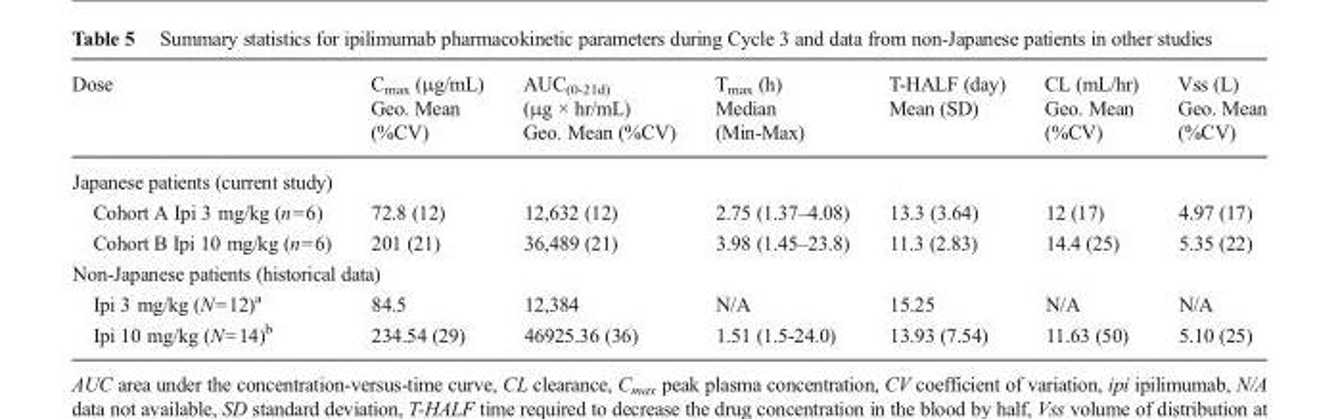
<table><thead><tr><td>Dose</td><td>C<sub>max</sub> (μg/mL) Geo. Mean (%CV)</td><td>AUC<sub>(0-21d)</sub> (μg × hr/mL) Geo. Mean (%CV)</td><td>T<sub>max</sub> (h) Median (Min-Max)</td><td>T-HALF (day) Mean (SD)</td><td>CL (mL/hr) Geo. Mean (%CV)</td><td>Vss (L) Geo. Mean (%CV)</td></tr></thead><tbody><tr><td colspan="7">Japanese patients (current study)</td></tr><tr><td>Cohort A Ipi 3 mg/kg (n=6)</td><td>72.8 (12)</td><td>12,632 (12)</td><td>2.75 (1.37–4.08)</td><td>13.3 (3.64)</td><td>12 (17)</td><td>4.97 (17)</td></tr><tr><td>Cohort B Ipi 10 mg/kg (n=6)</td><td>201 (21)</td><td>36,489 (21)</td><td>3.98 (1.45–23.8)</td><td>11.3 (2.83)</td><td>14.4 (25)</td><td>5.35 (22)</td></tr><tr><td colspan="7">Non-Japanese patients (historical data)</td></tr><tr><td>Ipi 3 mg/kg (N=12)<sup>a</sup></td><td>84.5</td><td>12,384</td><td>N/A</td><td>15.25</td><td>N/A</td><td>N/A</td></tr><tr><td>Ipi 10 mg/kg (N=14)<sup>b</sup></td><td>234.54 (29)</td><td>46925.36 (36)</td><td>1.51 (1.5-24.0)</td><td>13.93 (7.54)</td><td>11.63 (50)</td><td>5.10 (25)</td></tr></tbody></table>